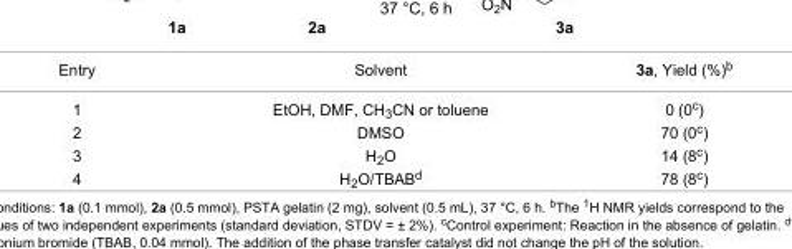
<table><tbody><tr><td>Entry</td><td>Solvent</td><td>3a, Yield (%)<sup>b</sup></td></tr><tr><td>1</td><td>EtOH, DMF, CH<sub>3</sub>CN or toluene</td><td>0 (0<sup>c</sup>)</td></tr><tr><td>2</td><td>DMSO</td><td>70 (0<sup>c</sup>)</td></tr><tr><td>3</td><td>H<sub>2</sub>O</td><td>14 (8<sup>c</sup>)</td></tr><tr><td>4</td><td>H<sub>2</sub>O/TBAB<sup>d</sup></td><td>78 (8<sup>c</sup>)</td></tr></tbody></table>